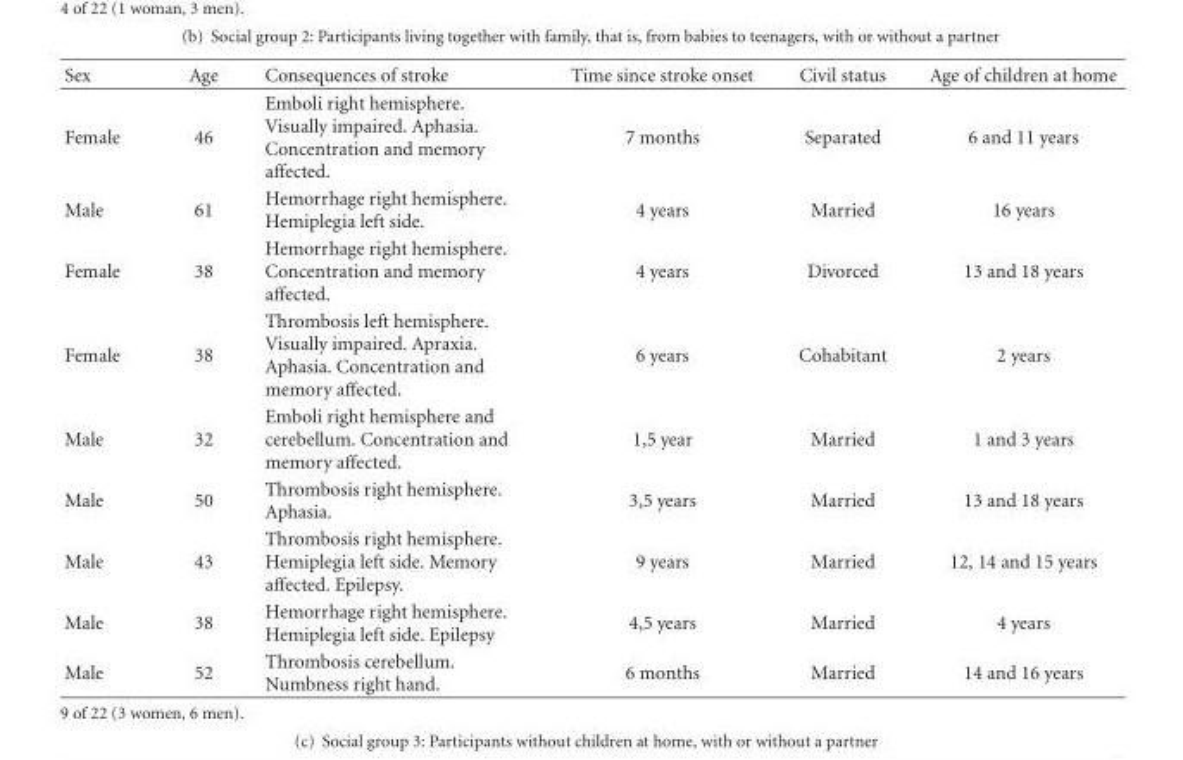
<table><thead><tr><td>Sex</td><td>Age</td><td>Consequences of stroke</td><td>Time since stroke onset</td><td>Civil status</td><td>Age of children at home</td></tr></thead><tbody><tr><td>Female</td><td>46</td><td>Emboli right hemisphere. Visually impaired. Aphasia. Concentration and memory affected.</td><td>7 months</td><td>Separated</td><td>6 and 11 years</td></tr><tr><td>Male</td><td>61</td><td>Hemorrhage right hemisphere. Hemiplegia left side.</td><td>4 years</td><td>Married</td><td>16 years</td></tr><tr><td>Female</td><td>38</td><td>Hemorrhage right hemisphere. Concentration and memory affected.</td><td>4 years</td><td>Divorced</td><td>13 and 18 years</td></tr><tr><td>Female</td><td>38</td><td>Thrombosis left hemisphere. Visually impaired. Apraxia. Aphasia. Concentration and memory affected.</td><td>6 years</td><td>Cohabitant</td><td>2 years</td></tr><tr><td>Male</td><td>32</td><td>Emboli right hemisphere and cerebellum. Concentration and memory affected.</td><td>1,5 year</td><td>Married</td><td>1 and 3 years</td></tr><tr><td>Male</td><td>50</td><td>Thrombosis right hemisphere. Aphasia.</td><td>3,5 years</td><td>Married</td><td>13 and 18 years</td></tr><tr><td>Male</td><td>43</td><td>Thrombosis right hemisphere. Hemiplegia left side. Memory affected. Epilepsy.</td><td>9 years</td><td>Married</td><td>12, 14 and 15 years</td></tr><tr><td>Male</td><td>38</td><td>Hemorrhage right hemisphere. Hemiplegia left side. Epilepsy</td><td>4,5 years</td><td>Married</td><td>4 years</td></tr><tr><td>Male</td><td>52</td><td>Thrombosis cerebellum. Numbness right hand.</td><td>6 months</td><td>Married</td><td>14 and 16 years</td></tr></tbody></table>